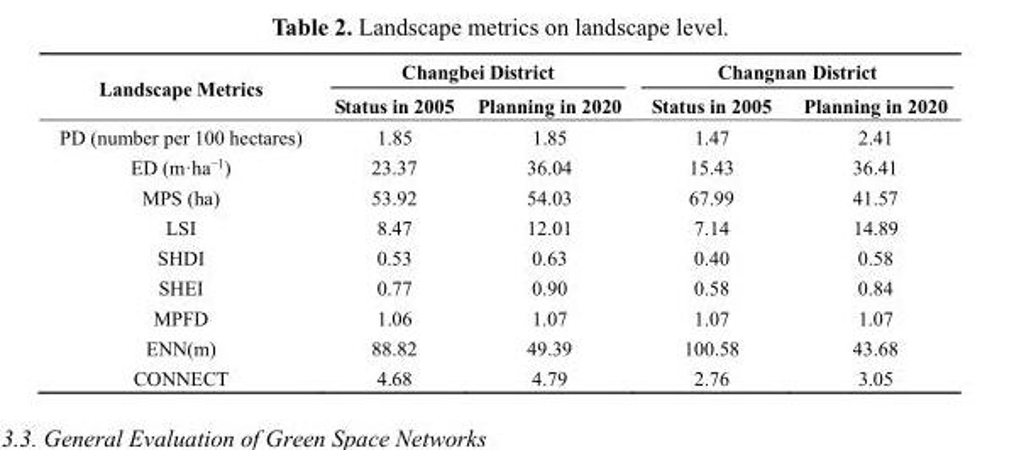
<table><thead><tr><td rowspan="2">Landscape Metrics</td><td colspan="2">Changbei District</td><td colspan="2">Changnan District</td></tr><tr><td>Status in 2005</td><td>Planning in 2020</td><td>Status in 2005</td><td>Planning in 2020</td></tr></thead><tbody><tr><td>PD (number per 100 hectares)</td><td>1.85</td><td>1.85</td><td>1.47</td><td>2.41</td></tr><tr><td>ED (m·ha<sup>−1</sup>)</td><td>23.37</td><td>36.04</td><td>15.43</td><td>36.41</td></tr><tr><td>MPS (ha)</td><td>53.92</td><td>54.03</td><td>67.99</td><td>41.57</td></tr><tr><td>LSI</td><td>8.47</td><td>12.01</td><td>7.14</td><td>14.89</td></tr><tr><td>SHDI</td><td>0.53</td><td>0.63</td><td>0.40</td><td>0.58</td></tr><tr><td>SHEI</td><td>0.77</td><td>0.90</td><td>0.58</td><td>0.84</td></tr><tr><td>MPFD</td><td>1.06</td><td>1.07</td><td>1.07</td><td>1.07</td></tr><tr><td>ENN(m)</td><td>88.82</td><td>49.39</td><td>100.58</td><td>43.68</td></tr><tr><td>CONNECT</td><td>4.68</td><td>4.79</td><td>2.76</td><td>3.05</td></tr></tbody></table>